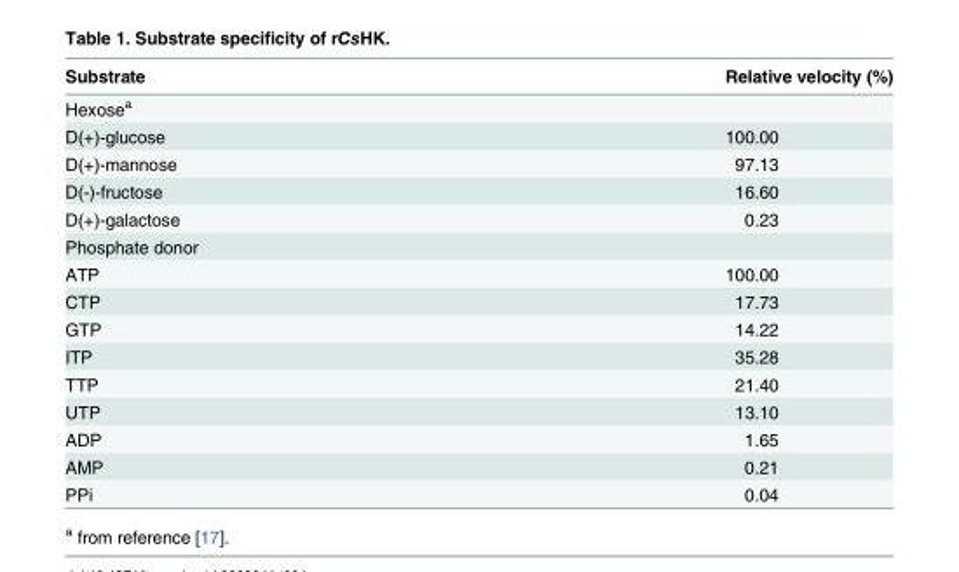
<table><thead><tr><td>Substrate</td><td>Relative velocity (%)</td></tr></thead><tbody><tr><td colspan="2">Hexose<sup>a</sup></td></tr><tr><td>D(+)-glucose</td><td>100.00</td></tr><tr><td>D(+)-mannose</td><td>97.13</td></tr><tr><td>D(-)-fructose</td><td>16.60</td></tr><tr><td>D(+)-galactose</td><td>0.23</td></tr><tr><td colspan="2">Phosphate donor</td></tr><tr><td>ATP</td><td>100.00</td></tr><tr><td>CTP</td><td>17.73</td></tr><tr><td>GTP</td><td>14.22</td></tr><tr><td>ITP</td><td>35.28</td></tr><tr><td>TTP</td><td>21.40</td></tr><tr><td>UTP</td><td>13.10</td></tr><tr><td>ADP</td><td>1.65</td></tr><tr><td>AMP</td><td>0.21</td></tr><tr><td>PPi</td><td>0.04</td></tr></tbody></table>